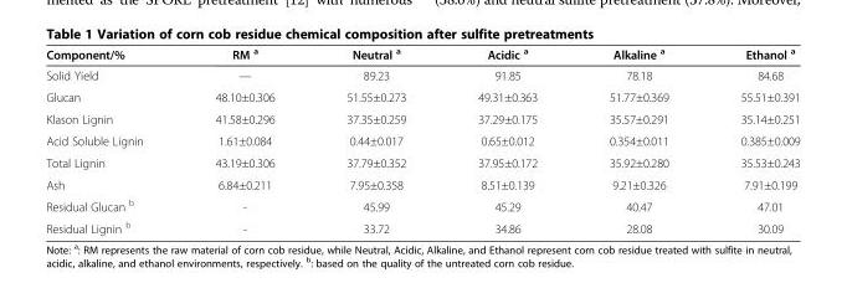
<table><thead><tr><td>Component/%</td><td>RM <sup>a</sup></td><td>Neutral <sup>a</sup></td><td>Acidic <sup>a</sup></td><td>Alkaline <sup>a</sup></td><td>Ethanol <sup>a</sup></td></tr></thead><tbody><tr><td>Solid Yield</td><td>—</td><td>89.23</td><td>91.85</td><td>78.18</td><td>84.68</td></tr><tr><td>Glucan</td><td>48.10±0.306</td><td>51.55±0.273</td><td>49.31±0.363</td><td>51.77±0.369</td><td>55.51±0.391</td></tr><tr><td>Klason Lignin</td><td>41.58±0.296</td><td>37.35±0.259</td><td>37.29±0.175</td><td>35.57±0.291</td><td>35.14±0.251</td></tr><tr><td>Acid Soluble Lignin</td><td>1.61±0.084</td><td>0.44±0.017</td><td>0.65±0.012</td><td>0.354±0.011</td><td>0.385±0.009</td></tr><tr><td>Total Lignin</td><td>43.19±0.306</td><td>37.79±0.352</td><td>37.95±0.172</td><td>35.92±0.280</td><td>35.53±0.243</td></tr><tr><td>Ash</td><td>6.84±0.211</td><td>7.95±0.358</td><td>8.51±0.139</td><td>9.21±0.326</td><td>7.91±0.199</td></tr><tr><td>Residual Glucan <sup>b</sup></td><td>-</td><td>45.99</td><td>45.29</td><td>40.47</td><td>47.01</td></tr><tr><td>Residual Lignin <sup>b</sup></td><td>-</td><td>33.72</td><td>34.86</td><td>28.08</td><td>30.09</td></tr></tbody></table>